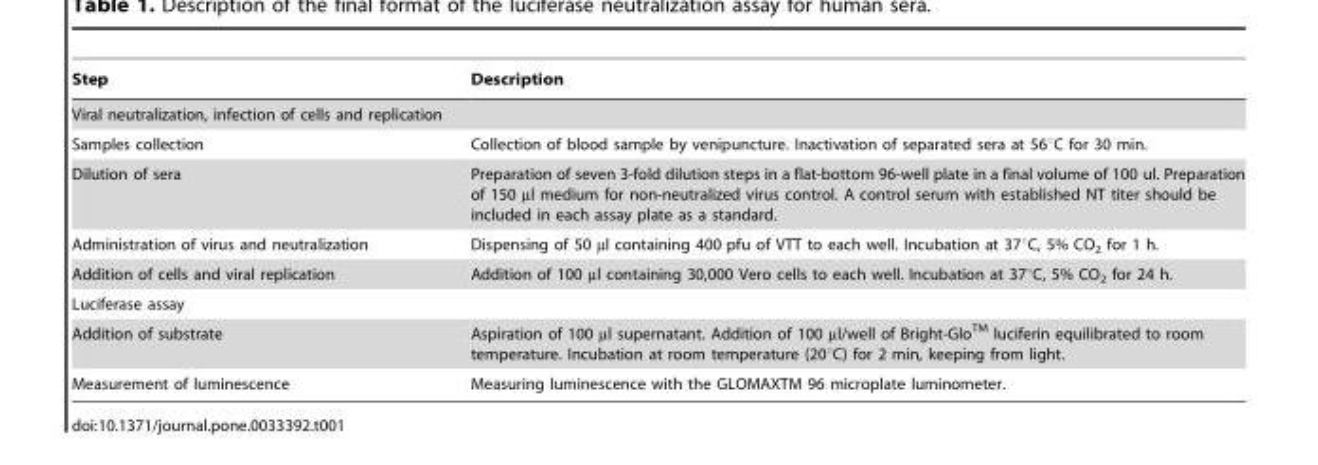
<table><thead><tr><td>Step</td><td>Description</td></tr></thead><tbody><tr><td colspan="2">Viral neutralization, infection of cells and replication</td></tr><tr><td>Samples collection</td><td>Collection of blood sample by venipuncture. Inactivation of separated sera at 56°C for 30 min.</td></tr><tr><td>Dilution of sera</td><td>Preparation of seven 3-fold dilution steps in a flat-bottom 96-well plate in a final volume of 100 ul. Preparation of 150 µl medium for non-neutralized virus control. A control serum with established NT titer should be included in each assay plate as a standard.</td></tr><tr><td>Administration of virus and neutralization</td><td>Dispensing of 50 µl containing 400 pfu of VTT to each well. Incubation at 37°C, 5% CO<sub>2</sub> for 1 h.</td></tr><tr><td>Addition of cells and viral replication</td><td>Addition of 100 µl containing 30,000 Vero cells to each well. Incubation at 37°C, 5% CO<sub>2</sub> for 24 h.</td></tr><tr><td colspan="2">Luciferase assay</td></tr><tr><td>Addition of substrate</td><td>Aspiration of 100 µl supernatant. Addition of 100 µl/well of Bright-Glo<sup>TM</sup> luciferin equilibrated to room temperature. Incubation at room temperature (20°C) for 2 min, keeping from light.</td></tr><tr><td>Measurement of luminescence</td><td>Measuring luminescence with the GLOMAXTM 96 microplate luminometer.</td></tr></tbody></table>